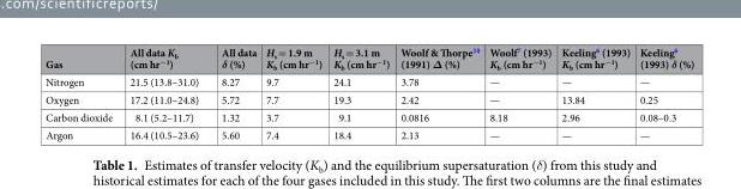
<table><thead><tr><td>Gas</td><td>All data K<sub>b</sub> (cm hr<sup>−1</sup>)</td><td>All data δ (%)</td><td>H<sub>s</sub> = 1.9 m K<sub>b</sub> (cm hr<sup>−1</sup>)</td><td>H<sub>s</sub> = 3.1 m K<sub>b</sub> (cm hr<sup>−1</sup>)</td><td>Woolf &amp; Thorpe<sup>10</sup> (1991) Δ (%)</td><td>Woolf<sup>7</sup> (1993) K<sub>b</sub> (cm hr<sup>−1</sup>)</td><td>Keeling<sup>6</sup> (1993) K<sub>b</sub> (cm hr<sup>−1</sup>)</td><td>Keeling<sup>6</sup> (1993) δ (%)</td></tr></thead><tbody><tr><td>Nitrogen</td><td>21.5 (13.8–31.0)</td><td>8.27</td><td>9.7</td><td>24.1</td><td>3.78</td><td>—</td><td>—</td><td>—</td></tr><tr><td>Oxygen</td><td>17.2 (11.0–24.8)</td><td>5.72</td><td>7.7</td><td>19.3</td><td>2.42</td><td>—</td><td>13.84</td><td>0.25</td></tr><tr><td>Carbon dioxide</td><td>8.1 (5.2–11.7)</td><td>1.32</td><td>3.7</td><td>9.1</td><td>0.0816</td><td>8.18</td><td>2.96</td><td>0.08–0.3</td></tr><tr><td>Argon</td><td>16.4 (10.5–23.6)</td><td>5.60</td><td>7.4</td><td>18.4</td><td>2.13</td><td>—</td><td>—</td><td>—</td></tr></tbody></table>